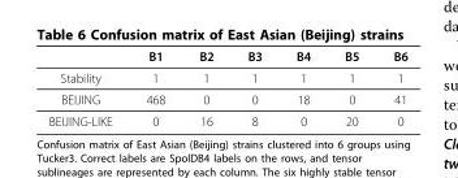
<table><thead><tr><td></td><td>B1</td><td>B2</td><td>B3</td><td>B4</td><td>B5</td><td>B6</td></tr></thead><tbody><tr><td>Stability</td><td>1</td><td>1</td><td>1</td><td>1</td><td>1</td><td>1</td></tr><tr><td>BEIJING</td><td>468</td><td>0</td><td>0</td><td>18</td><td>0</td><td>41</td></tr><tr><td>BEIJING-LIKE</td><td>0</td><td>16</td><td>8</td><td>0</td><td>20</td><td>0</td></tr></tbody></table>